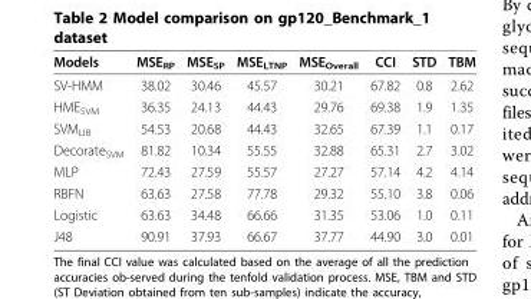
<table><thead><tr><td>Models</td><td>MSE<sub>RP</sub></td><td>MSE<sub>SP</sub></td><td>MSE<sub>LTNP</sub></td><td>MSE<sub>Overall</sub></td><td>CCI</td><td>STD</td><td>TBM</td></tr></thead><tbody><tr><td>SV-HMM</td><td>38.02</td><td>30.46</td><td>45.57</td><td>30.21</td><td>67.82</td><td>0.8</td><td>2.62</td></tr><tr><td>HME<sub>SVM</sub></td><td>36.35</td><td>24.13</td><td>44.43</td><td>29.76</td><td>69.38</td><td>1.9</td><td>1.35</td></tr><tr><td>SVM<sub>LIB</sub></td><td>54.53</td><td>20.68</td><td>44.43</td><td>32.65</td><td>67.39</td><td>1.1</td><td>0.17</td></tr><tr><td>Decorate<sub>SVM</sub></td><td>81.82</td><td>10.34</td><td>55.55</td><td>32.88</td><td>65.31</td><td>2.7</td><td>3.02</td></tr><tr><td>MLP</td><td>72.43</td><td>27.59</td><td>55.57</td><td>27.27</td><td>57.14</td><td>4.2</td><td>4.14</td></tr><tr><td>RBFN</td><td>63.63</td><td>27.58</td><td>77.78</td><td>29.32</td><td>55.10</td><td>3.8</td><td>0.06</td></tr><tr><td>Logistic</td><td>63.63</td><td>34.48</td><td>66.66</td><td>31.35</td><td>53.06</td><td>1.0</td><td>0.11</td></tr><tr><td>J48</td><td>90.91</td><td>37.93</td><td>66.67</td><td>37.77</td><td>44.90</td><td>3.0</td><td>0.01</td></tr></tbody></table>